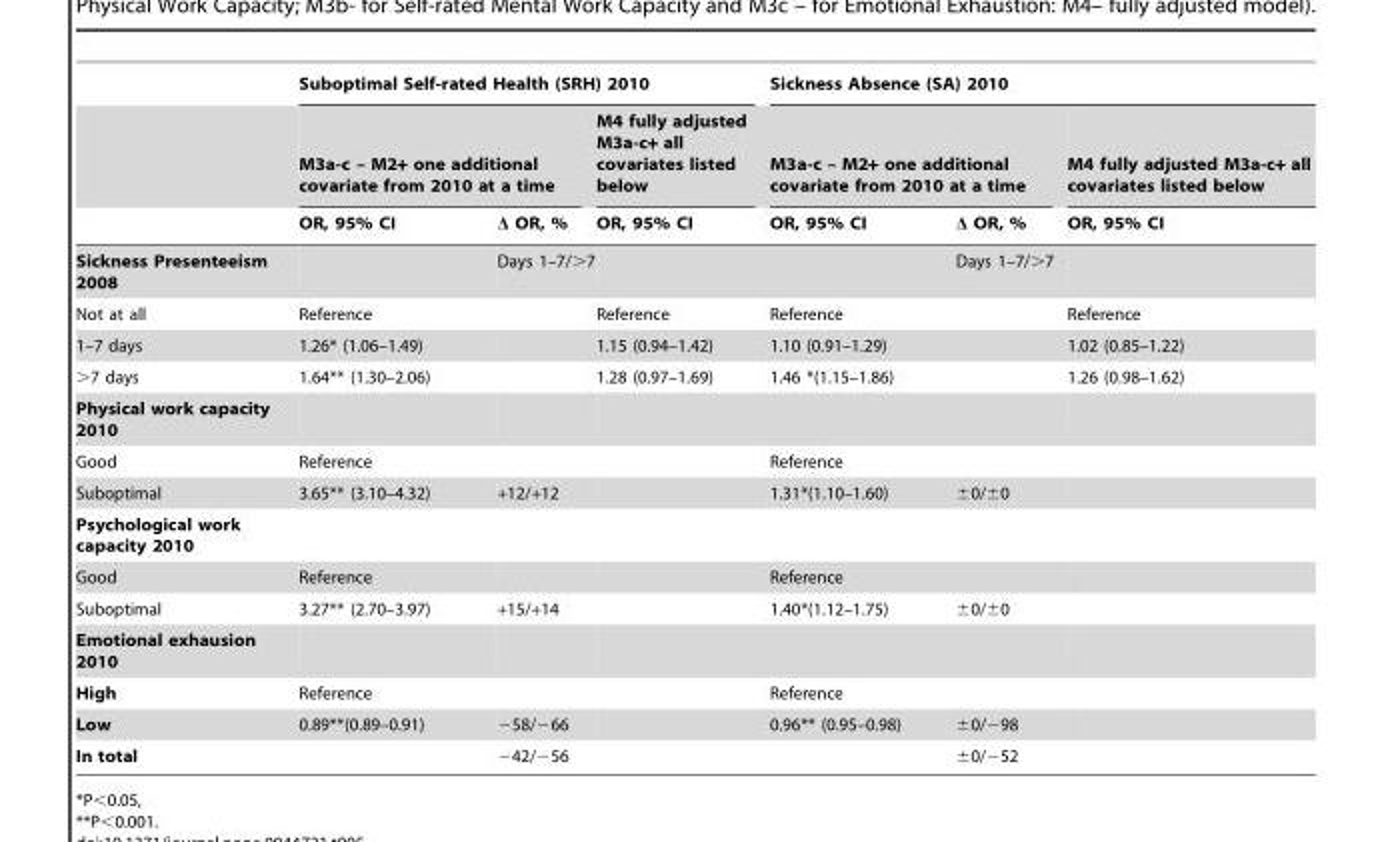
<table><thead><tr><td rowspan="3"></td><td colspan="3">Suboptimal Self-rated Health (SRH) 2010</td><td colspan="3">Sickness Absence (SA) 2010</td></tr><tr><td colspan="2">M3a-c – M2+ one additional covariate from 2010 at a time</td><td rowspan="2">M4 fully adjusted M3a-c+ all covariates listed below OR, 95% CI</td><td colspan="2">M3a-c – M2+ one additional covariate from 2010 at a time</td><td rowspan="2">M4 fully adjusted M3a-c+ all covariates listed below OR, 95% CI</td></tr><tr><td>OR, 95% CI</td><td>Δ OR, %</td><td>OR, 95% CI</td><td>Δ OR, %</td></tr></thead><tbody><tr><td>Sickness Presenteeism 2008</td><td></td><td>Days 1–7/&gt;7</td><td></td><td></td><td>Days 1–7/&gt;7</td><td></td></tr><tr><td>Not at all</td><td>Reference</td><td></td><td>Reference</td><td>Reference</td><td></td><td>Reference</td></tr><tr><td>1–7 days</td><td>1.26* (1.06–1.49)</td><td></td><td>1.15 (0.94–1.42)</td><td>1.10 (0.91–1.29)</td><td></td><td>1.02 (0.85–1.22)</td></tr><tr><td>&gt;7 days</td><td>1.64** (1.30–2.06)</td><td></td><td>1.28 (0.97–1.69)</td><td>1.46 *(1.15–1.86)</td><td></td><td>1.26 (0.98–1.62)</td></tr><tr><td colspan="7">Physical work capacity 2010</td></tr><tr><td>Good</td><td>Reference</td><td></td><td></td><td>Reference</td><td></td><td></td></tr><tr><td>Suboptimal</td><td>3.65** (3.10–4.32)</td><td>+12/+12</td><td></td><td>1.31*(1.10–1.60)</td><td>±0/±0</td><td></td></tr><tr><td colspan="7">Psychological work capacity 2010</td></tr><tr><td>Good</td><td>Reference</td><td></td><td></td><td>Reference</td><td></td><td></td></tr><tr><td>Suboptimal</td><td>3.27** (2.70–3.97)</td><td>+15/+14</td><td></td><td>1.40*(1.12–1.75)</td><td>±0/±0</td><td></td></tr><tr><td colspan="7">Emotional exhausion 2010</td></tr><tr><td>High</td><td>Reference</td><td></td><td></td><td>Reference</td><td></td><td></td></tr><tr><td>Low</td><td>0.89**(0.89–0.91)</td><td>−58/−66</td><td></td><td>0.96** (0.95–0.98)</td><td>±0/−98</td><td></td></tr><tr><td>In total</td><td></td><td>−42/−56</td><td></td><td></td><td>±0/−52</td><td></td></tr></tbody></table>